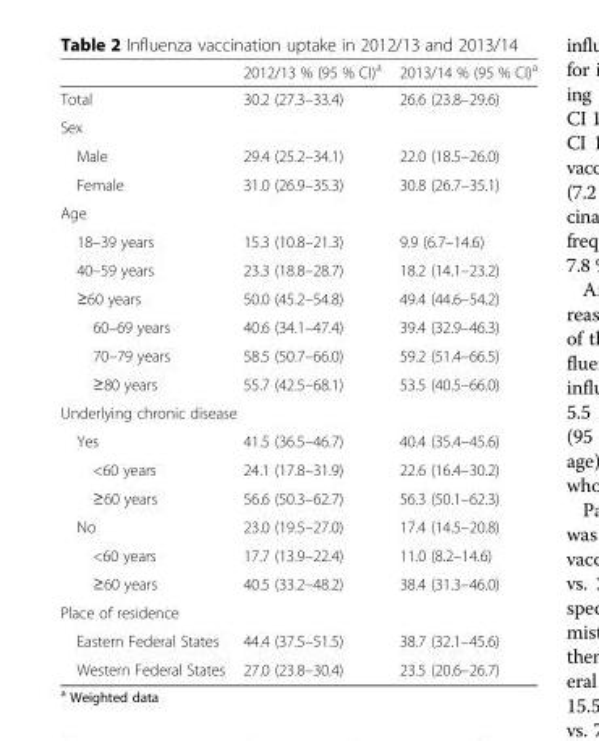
<table><thead><tr><td></td><td>2012/13 % (95 % CI)<sup>a</sup></td><td>2013/14 % (95 % CI)<sup>a</sup></td></tr></thead><tbody><tr><td>Total</td><td>30.2 (27.3–33.4)</td><td>26.6 (23.8–29.6)</td></tr><tr><td colspan="3">Sex</td></tr><tr><td>Male</td><td>29.4 (25.2–34.1)</td><td>22.0 (18.5–26.0)</td></tr><tr><td>Female</td><td>31.0 (26.9–35.3)</td><td>30.8 (26.7–35.1)</td></tr><tr><td colspan="3">Age</td></tr><tr><td>18–39 years</td><td>15.3 (10.8–21.3)</td><td>9.9 (6.7–14.6)</td></tr><tr><td>40–59 years</td><td>23.3 (18.8–28.7)</td><td>18.2 (14.1–23.2)</td></tr><tr><td>≥60 years</td><td>50.0 (45.2–54.8)</td><td>49.4 (44.6–54.2)</td></tr><tr><td>60–69 years</td><td>40.6 (34.1–47.4)</td><td>39.4 (32.9–46.3)</td></tr><tr><td>70–79 years</td><td>58.5 (50.7–66.0)</td><td>59.2 (51.4–66.5)</td></tr><tr><td>≥80 years</td><td>55.7 (42.5–68.1)</td><td>53.5 (40.5–66.0)</td></tr><tr><td colspan="3">Underlying chronic disease</td></tr><tr><td>Yes</td><td>41.5 (36.5–46.7)</td><td>40.4 (35.4–45.6)</td></tr><tr><td>&lt;60 years</td><td>24.1 (17.8–31.9)</td><td>22.6 (16.4–30.2)</td></tr><tr><td>≥60 years</td><td>56.6 (50.3–62.7)</td><td>56.3 (50.1–62.3)</td></tr><tr><td>No</td><td>23.0 (19.5–27.0)</td><td>17.4 (14.5–20.8)</td></tr><tr><td>&lt;60 years</td><td>17.7 (13.9–22.4)</td><td>11.0 (8.2–14.6)</td></tr><tr><td>≥60 years</td><td>40.5 (33.2–48.2)</td><td>38.4 (31.3–46.0)</td></tr><tr><td colspan="3">Place of residence</td></tr><tr><td>Eastern Federal States</td><td>44.4 (37.5–51.5)</td><td>38.7 (32.1–45.6)</td></tr><tr><td>Western Federal States</td><td>27.0 (23.8–30.4)</td><td>23.5 (20.6–26.7)</td></tr></tbody></table>